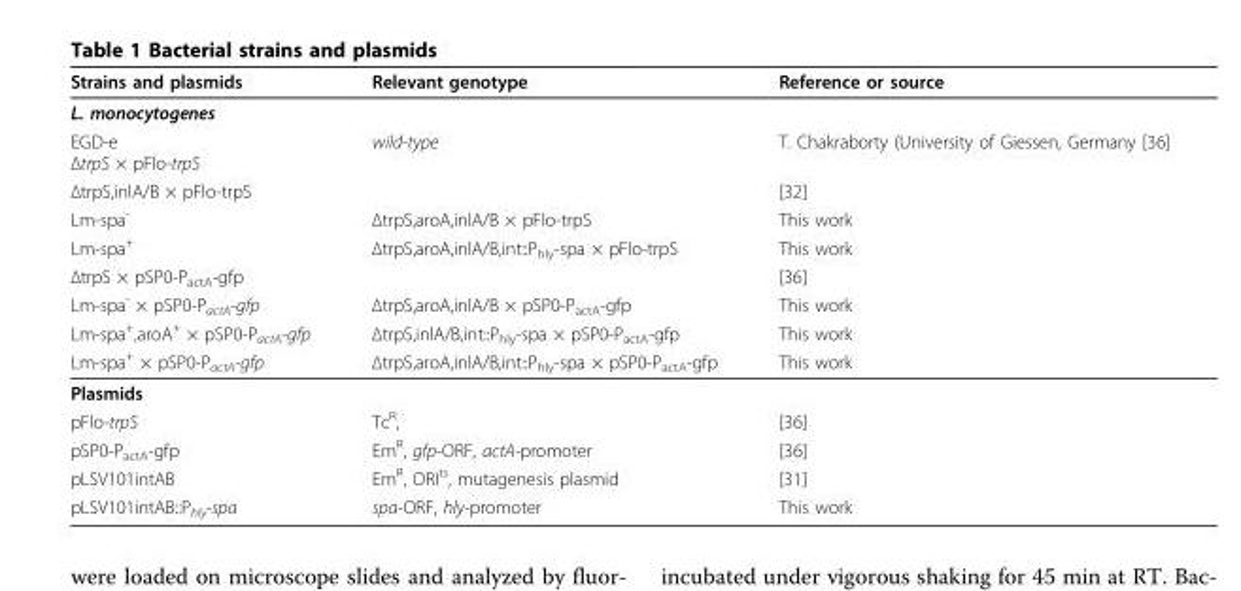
<table><thead><tr><td>Strains and plasmids</td><td>Relevant genotype</td><td>Reference or source</td></tr></thead><tbody><tr><td colspan="3">L. monocytogenes</td></tr><tr><td>EGD-e ΔtrpS × pFlo-trpS</td><td>wild-type</td><td>T. Chakraborty (University of Giessen, Germany [36]</td></tr><tr><td>ΔtrpS,inlA/B × pFlo-trpS</td><td></td><td>[32]</td></tr><tr><td>Lm-spa<sup>-</sup></td><td>ΔtrpS,aroA,inlA/B × pFlo-trpS</td><td>This work</td></tr><tr><td>Lm-spa<sup>+</sup></td><td>ΔtrpS,aroA,inlA/B,int::P<sub>hly</sub>-spa × pFlo-trpS</td><td>This work</td></tr><tr><td>ΔtrpS × pSP0-P<sub>actA</sub>-gfp</td><td></td><td>[36]</td></tr><tr><td>Lm-spa<sup>-</sup> × pSP0-P<sub>actA</sub>-gfp</td><td>ΔtrpS,aroA,inlA/B × pSP0-P<sub>actA</sub>-gfp</td><td>This work</td></tr><tr><td>Lm-spa<sup>+</sup>,aroA<sup>+</sup> × pSP0-P<sub>actA</sub>-gfp</td><td>ΔtrpS,inlA/B,int::P<sub>hly</sub>-spa × pSP0-P<sub>actA</sub>-gfp</td><td>This work</td></tr><tr><td>Lm-spa<sup>+</sup> × pSP0-P<sub>actA</sub>-gfp</td><td>ΔtrpS,aroA,inlA/B,int::P<sub>hly</sub>-spa × pSP0-P<sub>actA</sub>-gfp</td><td>This work</td></tr><tr><td colspan="3">Plasmids</td></tr><tr><td>pFlo-trpS</td><td>Tc<sup>R</sup>,</td><td>[36]</td></tr><tr><td>pSP0-P<sub>actA</sub>-gfp</td><td>Em<sup>R</sup>, gfp-ORF, actA-promoter</td><td>[36]</td></tr><tr><td>pLSV101intAB</td><td>Em<sup>R</sup>, ORI<sup>ts</sup>, mutagenesis plasmid</td><td>[31]</td></tr><tr><td>pLSV101intAB::P<sub>hly</sub>-spa</td><td>spa-ORF, hly-promoter</td><td>This work</td></tr></tbody></table>